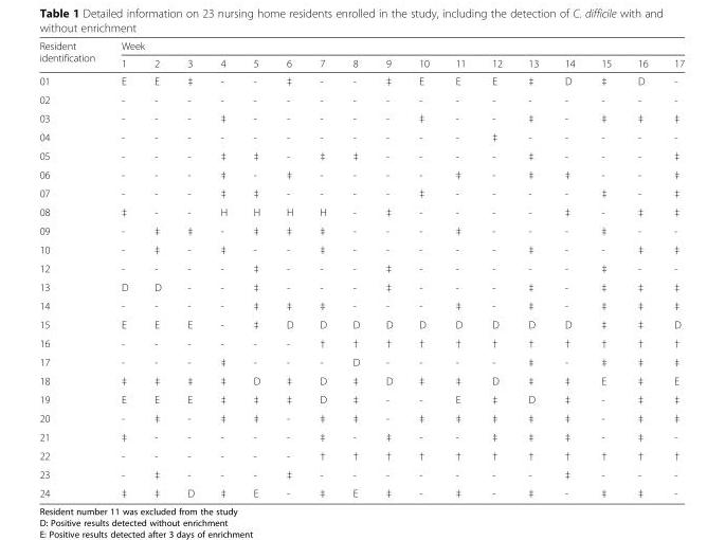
<table><thead><tr><td rowspan="2">Resident identification</td><td colspan="17">Week</td></tr><tr><td>1</td><td>2</td><td>3</td><td>4</td><td>5</td><td>6</td><td>7</td><td>8</td><td>9</td><td>10</td><td>11</td><td>12</td><td>13</td><td>14</td><td>15</td><td>16</td><td>17</td></tr></thead><tbody><tr><td>01</td><td>E</td><td>E</td><td>‡</td><td>-</td><td>-</td><td>‡</td><td>-</td><td>-</td><td>‡</td><td>E</td><td>E</td><td>E</td><td>‡</td><td>D</td><td>‡</td><td>D</td><td>-</td></tr><tr><td>02</td><td>-</td><td>-</td><td>-</td><td>-</td><td>-</td><td>-</td><td>-</td><td>-</td><td>-</td><td>-</td><td>-</td><td>-</td><td>-</td><td>-</td><td>-</td><td>-</td><td>-</td></tr><tr><td>03</td><td>-</td><td>-</td><td>-</td><td>‡</td><td>-</td><td>-</td><td>-</td><td>-</td><td>-</td><td>‡</td><td>-</td><td>-</td><td>‡</td><td>-</td><td>‡</td><td>‡</td><td>‡</td></tr><tr><td>04</td><td>-</td><td>-</td><td>-</td><td>-</td><td>-</td><td>-</td><td>-</td><td>-</td><td>-</td><td>-</td><td>-</td><td>‡</td><td>-</td><td>-</td><td>-</td><td>-</td><td>-</td></tr><tr><td>05</td><td>-</td><td>-</td><td>-</td><td>‡</td><td>‡</td><td>-</td><td>‡</td><td>‡</td><td>-</td><td>-</td><td>-</td><td>-</td><td>‡</td><td>-</td><td>-</td><td>-</td><td>‡</td></tr><tr><td>06</td><td>-</td><td>-</td><td>-</td><td>‡</td><td>-</td><td>‡</td><td>-</td><td>-</td><td>-</td><td>-</td><td>‡</td><td>-</td><td>‡</td><td>‡</td><td>-</td><td>-</td><td>‡</td></tr><tr><td>07</td><td>-</td><td>-</td><td>-</td><td>‡</td><td>‡</td><td>-</td><td>-</td><td>-</td><td>-</td><td>‡</td><td>-</td><td>-</td><td>-</td><td>-</td><td>‡</td><td>-</td><td>‡</td></tr><tr><td>08</td><td>‡</td><td>-</td><td>-</td><td>H</td><td>H</td><td>H</td><td>H</td><td>-</td><td>‡</td><td>-</td><td>-</td><td>-</td><td>-</td><td>‡</td><td>-</td><td>‡</td><td>‡</td></tr><tr><td>09</td><td>-</td><td>‡</td><td>‡</td><td>-</td><td>‡</td><td>‡</td><td>‡</td><td>-</td><td>-</td><td>-</td><td>‡</td><td>-</td><td>-</td><td>-</td><td>‡</td><td>-</td><td>-</td></tr><tr><td>10</td><td>-</td><td>‡</td><td>-</td><td>‡</td><td>-</td><td>-</td><td>‡</td><td>-</td><td>-</td><td>-</td><td>-</td><td>-</td><td>‡</td><td>-</td><td>-</td><td>‡</td><td>‡</td></tr><tr><td>12</td><td>-</td><td>-</td><td>-</td><td>-</td><td>‡</td><td>-</td><td>-</td><td>-</td><td>‡</td><td>-</td><td>-</td><td>-</td><td>-</td><td>-</td><td>‡</td><td>-</td><td>-</td></tr><tr><td>13</td><td>D</td><td>D</td><td>-</td><td>-</td><td>‡</td><td>-</td><td>-</td><td>-</td><td>‡</td><td>-</td><td>-</td><td>-</td><td>‡</td><td>-</td><td>‡</td><td>‡</td><td>‡</td></tr><tr><td>14</td><td>-</td><td>-</td><td>-</td><td>-</td><td>‡</td><td>‡</td><td>‡</td><td>-</td><td>-</td><td>-</td><td>‡</td><td>-</td><td>‡</td><td>-</td><td>‡</td><td>‡</td><td>‡</td></tr><tr><td>15</td><td>E</td><td>E</td><td>E</td><td>-</td><td>‡</td><td>D</td><td>D</td><td>D</td><td>D</td><td>D</td><td>D</td><td>D</td><td>D</td><td>D</td><td>‡</td><td>‡</td><td>D</td></tr><tr><td>16</td><td>-</td><td>-</td><td>-</td><td>-</td><td>-</td><td>-</td><td>†</td><td>†</td><td>†</td><td>†</td><td>†</td><td>†</td><td>†</td><td>†</td><td>†</td><td>†</td><td>†</td></tr><tr><td>17</td><td>-</td><td>-</td><td>-</td><td>‡</td><td>-</td><td>-</td><td>-</td><td>D</td><td>-</td><td>-</td><td>-</td><td>-</td><td>‡</td><td>-</td><td>‡</td><td>‡</td><td>‡</td></tr><tr><td>18</td><td>‡</td><td>‡</td><td>‡</td><td>‡</td><td>D</td><td>‡</td><td>D</td><td>‡</td><td>D</td><td>‡</td><td>‡</td><td>D</td><td>‡</td><td>‡</td><td>E</td><td>‡</td><td>E</td></tr><tr><td>19</td><td>E</td><td>E</td><td>E</td><td>‡</td><td>‡</td><td>‡</td><td>D</td><td>‡</td><td>-</td><td>-</td><td>E</td><td>‡</td><td>D</td><td>‡</td><td>-</td><td>‡</td><td>‡</td></tr><tr><td>20</td><td>-</td><td>‡</td><td>-</td><td>‡</td><td>‡</td><td>-</td><td>‡</td><td>‡</td><td>-</td><td>‡</td><td>‡</td><td>‡</td><td>‡</td><td>‡</td><td>-</td><td>‡</td><td>‡</td></tr><tr><td>21</td><td>‡</td><td>-</td><td>-</td><td>-</td><td>-</td><td>-</td><td>‡</td><td>-</td><td>‡</td><td>-</td><td>-</td><td>‡</td><td>‡</td><td>‡</td><td>-</td><td>‡</td><td>-</td></tr><tr><td>22</td><td>-</td><td>-</td><td>-</td><td>-</td><td>-</td><td>-</td><td>†</td><td>†</td><td>†</td><td>†</td><td>†</td><td>†</td><td>†</td><td>†</td><td>†</td><td>†</td><td>†</td></tr><tr><td>23</td><td>-</td><td>‡</td><td>-</td><td>-</td><td>-</td><td>‡</td><td>-</td><td>-</td><td>-</td><td>-</td><td>-</td><td>-</td><td>-</td><td>‡</td><td>-</td><td>-</td><td>-</td></tr><tr><td>24</td><td>‡</td><td>‡</td><td>D</td><td>‡</td><td>E</td><td>-</td><td>‡</td><td>E</td><td>‡</td><td>-</td><td>‡</td><td>-</td><td>‡</td><td>-</td><td>‡</td><td>‡</td><td>-</td></tr></tbody></table>